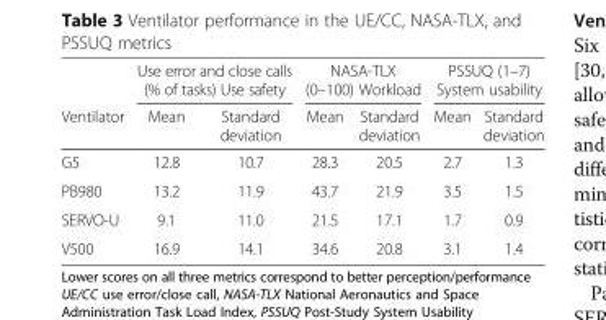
<table><thead><tr><td rowspan="2">Ventilator</td><td colspan="2">Use error and close calls (% of tasks) Use safety</td><td colspan="2">NASA-TLX (0–100) Workload</td><td colspan="2">PSSUQ (1–7) System usability</td></tr><tr><td>Mean</td><td>Standard deviation</td><td>Mean</td><td>Standard deviation</td><td>Mean</td><td>Standard deviation</td></tr></thead><tbody><tr><td>G5</td><td>12.8</td><td>10.7</td><td>28.3</td><td>20.5</td><td>2.7</td><td>1.3</td></tr><tr><td>PB980</td><td>13.2</td><td>11.9</td><td>43.7</td><td>21.9</td><td>3.5</td><td>1.5</td></tr><tr><td>SERVO-U</td><td>9.1</td><td>11.0</td><td>21.5</td><td>17.1</td><td>1.7</td><td>0.9</td></tr><tr><td>V500</td><td>16.9</td><td>14.1</td><td>34.6</td><td>20.8</td><td>3.1</td><td>1.4</td></tr></tbody></table>